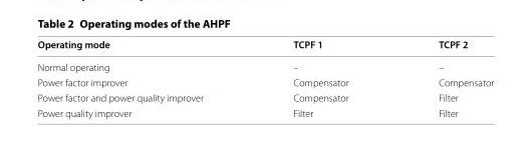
<table><thead><tr><td>Operating mode</td><td>TCPF 1</td><td>TCPF 2</td></tr></thead><tbody><tr><td>Normal operating</td><td>–</td><td>–</td></tr><tr><td>Power factor improver</td><td>Compensator</td><td>Compensator</td></tr><tr><td>Power factor and power quality improver</td><td>Compensator</td><td>Filter</td></tr><tr><td>Power quality improver</td><td>Filter</td><td>Filter</td></tr></tbody></table>